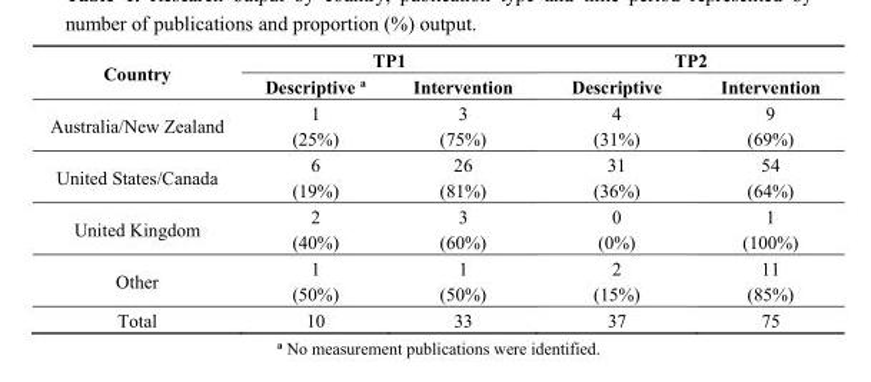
<table><thead><tr><td rowspan="2">Country</td><td colspan="2">TP1</td><td colspan="2">TP2</td></tr><tr><td>Descriptive <sup>a</sup></td><td>Intervention</td><td>Descriptive</td><td>Intervention</td></tr></thead><tbody><tr><td>Australia/New Zealand</td><td>1 (25%)</td><td>3 (75%)</td><td>4 (31%)</td><td>9 (69%)</td></tr><tr><td>United States/Canada</td><td>6 (19%)</td><td>26 (81%)</td><td>31 (36%)</td><td>54 (64%)</td></tr><tr><td>United Kingdom</td><td>2 (40%)</td><td>3 (60%)</td><td>0 (0%)</td><td>1 (100%)</td></tr><tr><td>Other</td><td>1 (50%)</td><td>1 (50%)</td><td>2 (15%)</td><td>11 (85%)</td></tr><tr><td>Total</td><td>10</td><td>33</td><td>37</td><td>75</td></tr></tbody></table>